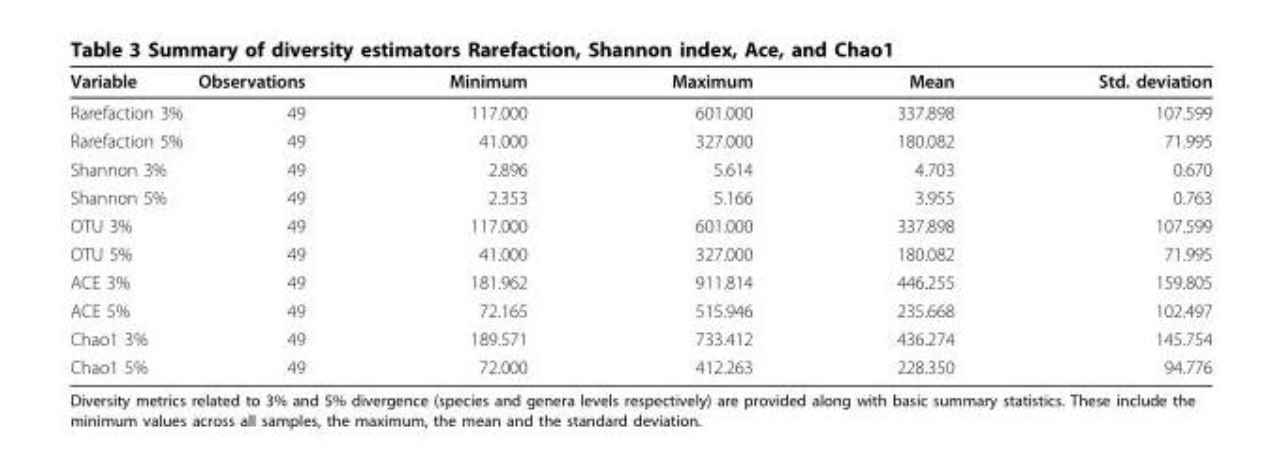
<table><thead><tr><td>Variable</td><td>Observations</td><td>Minimum</td><td>Maximum</td><td>Mean</td><td>Std. deviation</td></tr></thead><tbody><tr><td>Rarefaction 3%</td><td>49</td><td>117.000</td><td>601.000</td><td>337.898</td><td>107.599</td></tr><tr><td>Rarefaction 5%</td><td>49</td><td>41.000</td><td>327.000</td><td>180.082</td><td>71.995</td></tr><tr><td>Shannon 3%</td><td>49</td><td>2.896</td><td>5.614</td><td>4.703</td><td>0.670</td></tr><tr><td>Shannon 5%</td><td>49</td><td>2.353</td><td>5.166</td><td>3.955</td><td>0.763</td></tr><tr><td>OTU 3%</td><td>49</td><td>117.000</td><td>601.000</td><td>337.898</td><td>107.599</td></tr><tr><td>OTU 5%</td><td>49</td><td>41.000</td><td>327.000</td><td>180.082</td><td>71.995</td></tr><tr><td>ACE 3%</td><td>49</td><td>181.962</td><td>911.814</td><td>446.255</td><td>159.805</td></tr><tr><td>ACE 5%</td><td>49</td><td>72.165</td><td>515.946</td><td>235.668</td><td>102.497</td></tr><tr><td>Chao1 3%</td><td>49</td><td>189.571</td><td>733.412</td><td>436.274</td><td>145.754</td></tr><tr><td>Chao1 5%</td><td>49</td><td>72.000</td><td>412.263</td><td>228.350</td><td>94.776</td></tr></tbody></table>